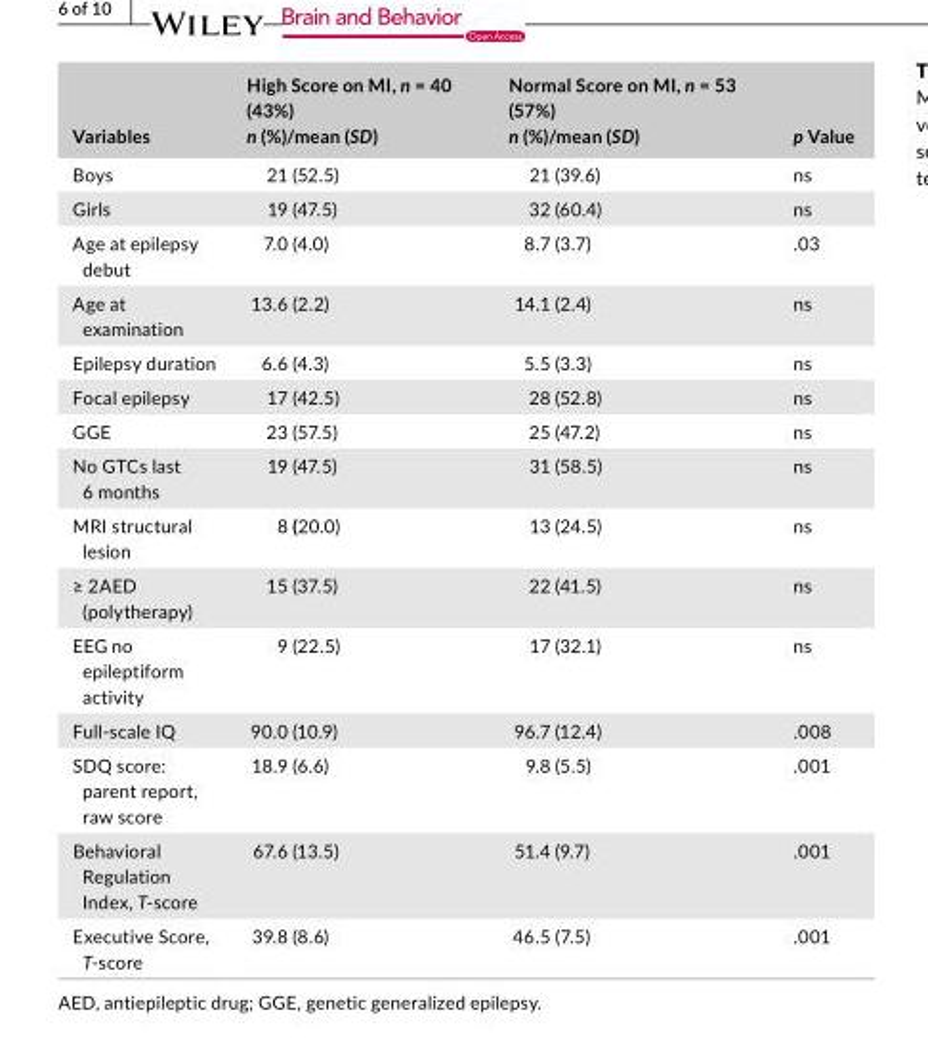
<table><thead><tr><td>Variables</td><td>High Score on MI, n = 40 (43%) n (%)/mean (SD)</td><td>Normal Score on MI, n = 53 (57%) n (%)/mean (SD)</td><td>p Value</td></tr></thead><tbody><tr><td>Boys</td><td>21 (52.5)</td><td>21 (39.6)</td><td>ns</td></tr><tr><td>Girls</td><td>19 (47.5)</td><td>32 (60.4)</td><td>ns</td></tr><tr><td>Age at epilepsy debut</td><td>7.0 (4.0)</td><td>8.7 (3.7)</td><td>.03</td></tr><tr><td>Age at examination</td><td>13.6 (2.2)</td><td>14.1 (2.4)</td><td>ns</td></tr><tr><td>Epilepsy duration</td><td>6.6 (4.3)</td><td>5.5 (3.3)</td><td>ns</td></tr><tr><td>Focal epilepsy</td><td>17 (42.5)</td><td>28 (52.8)</td><td>ns</td></tr><tr><td>GGE</td><td>23 (57.5)</td><td>25 (47.2)</td><td>ns</td></tr><tr><td>No GTCs last 6 months</td><td>19 (47.5)</td><td>31 (58.5)</td><td>ns</td></tr><tr><td>MRI structural lesion</td><td>8 (20.0)</td><td>13 (24.5)</td><td>ns</td></tr><tr><td>≥ 2AED (polytherapy)</td><td>15 (37.5)</td><td>22 (41.5)</td><td>ns</td></tr><tr><td>EEG no epileptiform activity</td><td>9 (22.5)</td><td>17 (32.1)</td><td>ns</td></tr><tr><td>Full- scale IQ</td><td>90.0 (10.9)</td><td>96.7 (12.4)</td><td>.008</td></tr><tr><td>SDQ score: parent report, raw score</td><td>18.9 (6.6)</td><td>9.8 (5.5)</td><td>.001</td></tr><tr><td>Behavioral Regulation Index, T- score</td><td>67.6 (13.5)</td><td>51.4 (9.7)</td><td>.001</td></tr><tr><td>Executive Score, T- score</td><td>39.8 (8.6)</td><td>46.5 (7.5)</td><td>.001</td></tr></tbody></table>